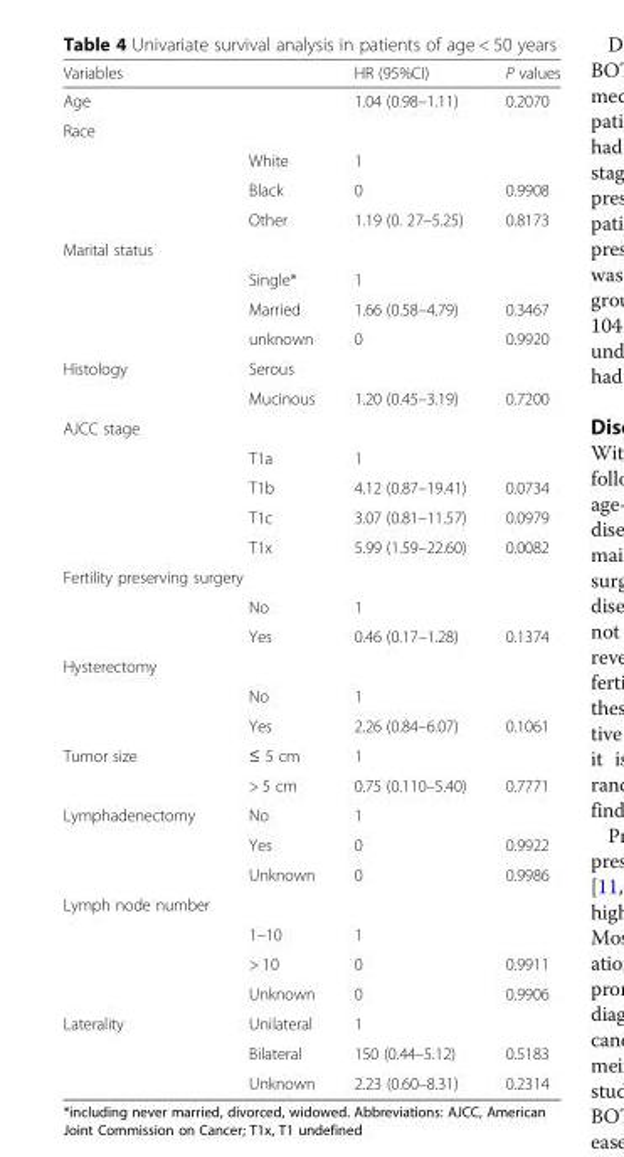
<table><thead><tr><td>Variables</td><td></td><td>HR (95%CI)</td><td>P values</td></tr></thead><tbody><tr><td>Age</td><td></td><td>1.04 (0.98–1.11)</td><td>0.2070</td></tr><tr><td colspan="4">Race</td></tr><tr><td></td><td>White</td><td>1</td><td></td></tr><tr><td></td><td>Black</td><td>0</td><td>0.9908</td></tr><tr><td></td><td>Other</td><td>1.19 (0. 27–5.25)</td><td>0.8173</td></tr><tr><td colspan="4">Marital status</td></tr><tr><td></td><td>Single*</td><td>1</td><td></td></tr><tr><td></td><td>Married</td><td>1.66 (0.58–4.79)</td><td>0.3467</td></tr><tr><td></td><td>unknown</td><td>0</td><td>0.9920</td></tr><tr><td rowspan="2">Histology</td><td>Serous</td><td></td><td></td></tr><tr><td>Mucinous</td><td>1.20 (0.45–3.19)</td><td>0.7200</td></tr><tr><td colspan="4">AJCC stage</td></tr><tr><td></td><td>T1a</td><td>1</td><td></td></tr><tr><td></td><td>T1b</td><td>4.12 (0.87–19.41)</td><td>0.0734</td></tr><tr><td></td><td>T1c</td><td>3.07 (0.81–11.57)</td><td>0.0979</td></tr><tr><td></td><td>T1x</td><td>5.99 (1.59–22.60)</td><td>0.0082</td></tr><tr><td colspan="4">Fertility preserving surgery</td></tr><tr><td></td><td>No</td><td>1</td><td></td></tr><tr><td></td><td>Yes</td><td>0.46 (0.17–1.28)</td><td>0.1374</td></tr><tr><td colspan="4">Hysterectomy</td></tr><tr><td></td><td>No</td><td>1</td><td></td></tr><tr><td></td><td>Yes</td><td>2.26 (0.84–6.07)</td><td>0.1061</td></tr><tr><td rowspan="2">Tumor size</td><td>≤ 5 cm</td><td>1</td><td></td></tr><tr><td>&gt; 5 cm</td><td>0.75 (0.110–5.40)</td><td>0.7771</td></tr><tr><td rowspan="3">Lymphadenectomy</td><td>No</td><td>1</td><td></td></tr><tr><td>Yes</td><td>0</td><td>0.9922</td></tr><tr><td>Unknown</td><td>0</td><td>0.9986</td></tr><tr><td colspan="4">Lymph node number</td></tr><tr><td></td><td>1–10</td><td>1</td><td></td></tr><tr><td></td><td>&gt; 10</td><td>0</td><td>0.9911</td></tr><tr><td></td><td>Unknown</td><td>0</td><td>0.9906</td></tr><tr><td rowspan="3">Laterality</td><td>Unilateral</td><td>1</td><td></td></tr><tr><td>Bilateral</td><td>150 (0.44–5.12)</td><td>0.5183</td></tr><tr><td>Unknown</td><td>2.23 (0.60–8.31)</td><td>0.2314</td></tr></tbody></table>